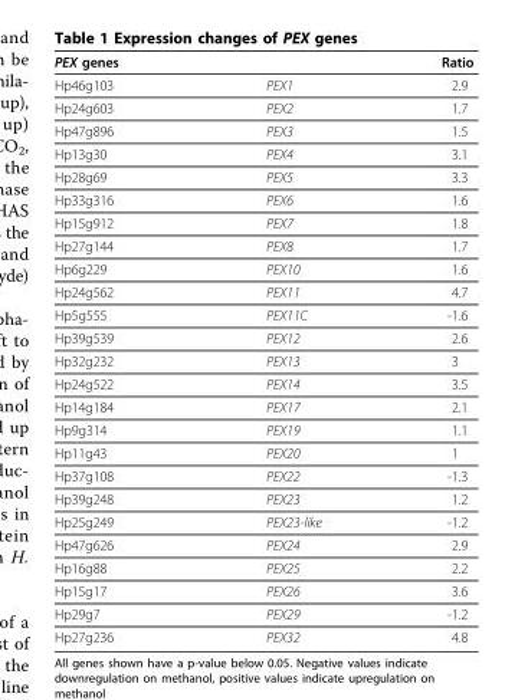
<table><thead><tr><td>PEX genes</td><td></td><td>Ratio</td></tr></thead><tbody><tr><td>Hp46g103</td><td>PEX1</td><td>2.9</td></tr><tr><td>Hp24g603</td><td>PEX2</td><td>1.7</td></tr><tr><td>Hp47g896</td><td>PEX3</td><td>1.5</td></tr><tr><td>Hp13g30</td><td>PEX4</td><td>3.1</td></tr><tr><td>Hp28g69</td><td>PEX5</td><td>3.3</td></tr><tr><td>Hp33g316</td><td>PEX6</td><td>1.6</td></tr><tr><td>Hp15g912</td><td>PEX7</td><td>1.8</td></tr><tr><td>Hp27g144</td><td>PEX8</td><td>1.7</td></tr><tr><td>Hp6g229</td><td>PEX10</td><td>1.6</td></tr><tr><td>Hp24g562</td><td>PEX11</td><td>4.7</td></tr><tr><td>Hp5g555</td><td>PEX11C</td><td>-1.6</td></tr><tr><td>Hp39g539</td><td>PEX12</td><td>2.6</td></tr><tr><td>Hp32g232</td><td>PEX13</td><td>3</td></tr><tr><td>Hp24g522</td><td>PEX14</td><td>3.5</td></tr><tr><td>Hp14g184</td><td>PEX17</td><td>2.1</td></tr><tr><td>Hp9g314</td><td>PEX19</td><td>1.1</td></tr><tr><td>Hp11g43</td><td>PEX20</td><td>1</td></tr><tr><td>Hp37g108</td><td>PEX22</td><td>-1.3</td></tr><tr><td>Hp39g248</td><td>PEX23</td><td>1.2</td></tr><tr><td>Hp25g249</td><td>PEX23-like</td><td>-1.2</td></tr><tr><td>Hp47g626</td><td>PEX24</td><td>2.9</td></tr><tr><td>Hp16g88</td><td>PEX25</td><td>2.2</td></tr><tr><td>Hp15g17</td><td>PEX26</td><td>3.6</td></tr><tr><td>Hp29g7</td><td>PEX29</td><td>-1.2</td></tr><tr><td>Hp27g236</td><td>PEX32</td><td>4.8</td></tr></tbody></table>